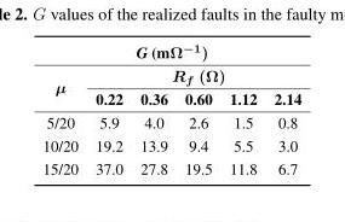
<table><thead><tr><td colspan="6">G (mΩ<sup>−1</sup>)</td></tr><tr><td rowspan="2">µ</td><td colspan="5">R<sub>f</sub> (Ω)</td></tr><tr><td>0.22</td><td>0.36</td><td>0.60</td><td>1.12</td><td>2.14</td></tr></thead><tbody><tr><td>5/20</td><td>5.9</td><td>4.0</td><td>2.6</td><td>1.5</td><td>0.8</td></tr><tr><td>10/20</td><td>19.2</td><td>13.9</td><td>9.4</td><td>5.5</td><td>3.0</td></tr><tr><td>15/20</td><td>37.0</td><td>27.8</td><td>19.5</td><td>11.8</td><td>6.7</td></tr></tbody></table>